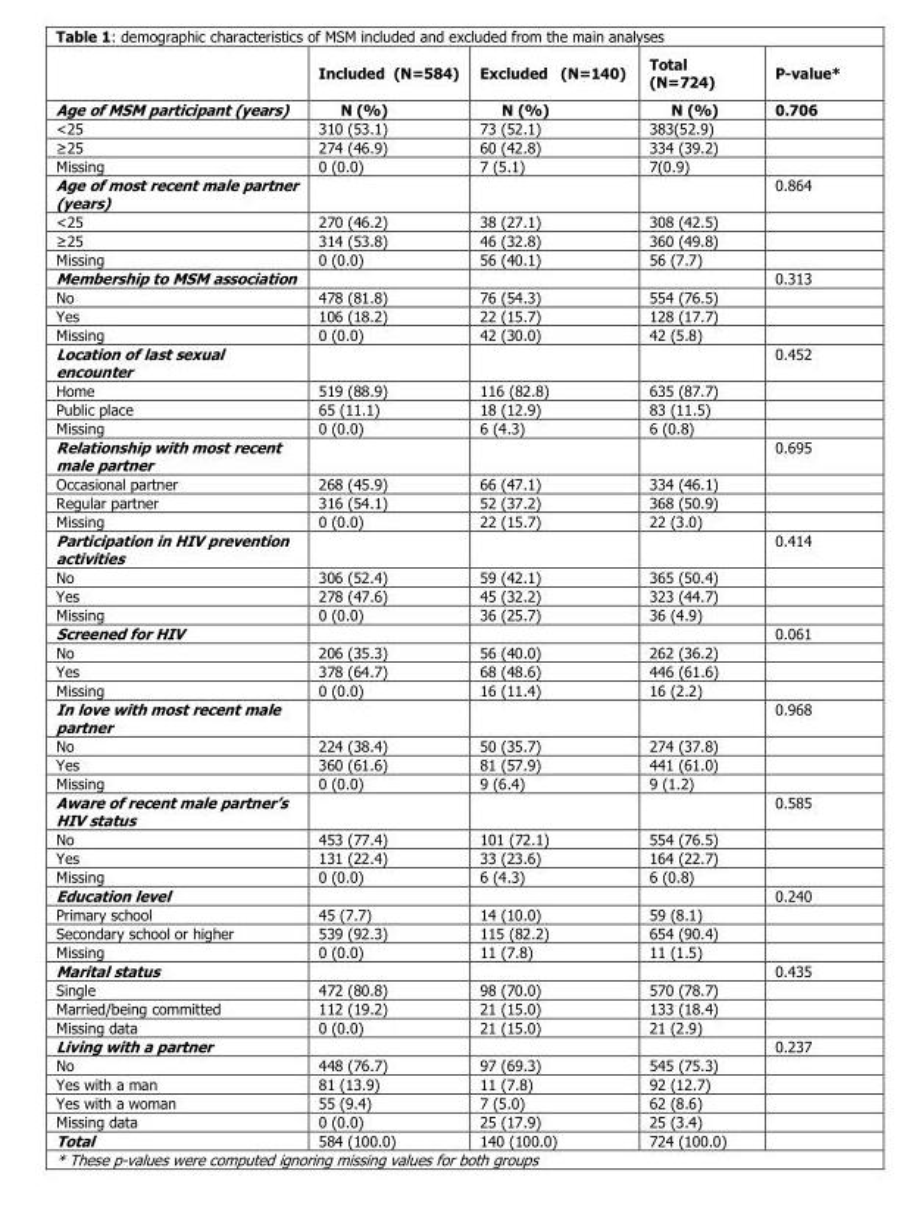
<table><thead><tr><td></td><td>Included (N=584)</td><td>Excluded (N=140)</td><td>Total (N=724)</td><td>P-value*</td></tr></thead><tbody><tr><td>Age of MSM participant (years)</td><td>N (%)</td><td>N (%)</td><td>N (%)</td><td>0.706</td></tr><tr><td>&lt;25</td><td>310 (53.1)</td><td>73 (52.1)</td><td>383(52.9)</td><td></td></tr><tr><td>≥25</td><td>274 (46.9)</td><td>60 (42.8)</td><td>334 (39.2)</td><td></td></tr><tr><td>Missing</td><td>0 (0.0)</td><td>7 (5.1)</td><td>7(0.9)</td><td></td></tr><tr><td>Age of most recent male partner (years)</td><td></td><td></td><td></td><td>0.864</td></tr><tr><td>&lt;25</td><td>270 (46.2)</td><td>38 (27.1)</td><td>308 (42.5)</td><td></td></tr><tr><td>≥25</td><td>314 (53.8)</td><td>46 (32.8)</td><td>360 (49.8)</td><td></td></tr><tr><td>Missing</td><td>0 (0.0)</td><td>56 (40.1)</td><td>56 (7.7)</td><td></td></tr><tr><td>Membership to MSM association</td><td></td><td></td><td></td><td>0.313</td></tr><tr><td>No</td><td>478 (81.8)</td><td>76 (54.3)</td><td>554 (76.5)</td><td></td></tr><tr><td>Yes</td><td>106 (18.2)</td><td>22 (15.7)</td><td>128 (17.7)</td><td></td></tr><tr><td>Missing</td><td>0 (0.0)</td><td>42 (30.0)</td><td>42 (5.8)</td><td></td></tr><tr><td>Location of last sexual encounter</td><td></td><td></td><td></td><td>0.452</td></tr><tr><td>Home</td><td>519 (88.9)</td><td>116 (82.8)</td><td>635 (87.7)</td><td></td></tr><tr><td>Public place</td><td>65 (11.1)</td><td>18 (12.9)</td><td>83 (11.5)</td><td></td></tr><tr><td>Missing</td><td>0 (0.0)</td><td>6 (4.3)</td><td>6 (0.8)</td><td></td></tr><tr><td>Relationship with most recent male partner</td><td></td><td></td><td></td><td>0.695</td></tr><tr><td>Occasional partner</td><td>268 (45.9)</td><td>66 (47.1)</td><td>334 (46.1)</td><td></td></tr><tr><td>Regular partner</td><td>316 (54.1)</td><td>52 (37.2)</td><td>368 (50.9)</td><td></td></tr><tr><td>Missing</td><td>0 (0.0)</td><td>22 (15.7)</td><td>22 (3.0)</td><td></td></tr><tr><td>Participation in HIV prevention activities</td><td></td><td></td><td></td><td>0.414</td></tr><tr><td>No</td><td>306 (52.4)</td><td>59 (42.1)</td><td>365 (50.4)</td><td></td></tr><tr><td>Yes</td><td>278 (47.6)</td><td>45 (32.2)</td><td>323 (44.7)</td><td></td></tr><tr><td>Missing</td><td>0 (0.0)</td><td>36 (25.7)</td><td>36 (4.9)</td><td></td></tr><tr><td>Screened for HIV</td><td></td><td></td><td></td><td>0.061</td></tr><tr><td>No</td><td>206 (35.3)</td><td>56 (40.0)</td><td>262 (36.2)</td><td></td></tr><tr><td>Yes</td><td>378 (64.7)</td><td>68 (48.6)</td><td>446 (61.6)</td><td></td></tr><tr><td>Missing</td><td>0 (0.0)</td><td>16 (11.4)</td><td>16 (2.2)</td><td></td></tr><tr><td>In love with most recent male partner</td><td></td><td></td><td></td><td>0.968</td></tr><tr><td>No</td><td>224 (38.4)</td><td>50 (35.7)</td><td>274 (37.8)</td><td></td></tr><tr><td>Yes</td><td>360 (61.6)</td><td>81 (57.9)</td><td>441 (61.0)</td><td></td></tr><tr><td>Missing</td><td>0 (0.0)</td><td>9 (6.4)</td><td>9 (1.2)</td><td></td></tr><tr><td>Aware of recent male partner’s HIV status</td><td></td><td></td><td></td><td>0.585</td></tr><tr><td>No</td><td>453 (77.4)</td><td>101 (72.1)</td><td>554 (76.5)</td><td></td></tr><tr><td>Yes</td><td>131 (22.4)</td><td>33 (23.6)</td><td>164 (22.7)</td><td></td></tr><tr><td>Missing</td><td>0 (0.0)</td><td>6 (4.3)</td><td>6 (0.8)</td><td></td></tr><tr><td>Education level</td><td></td><td></td><td></td><td>0.240</td></tr><tr><td>Primary school</td><td>45 (7.7)</td><td>14 (10.0)</td><td>59 (8.1)</td><td></td></tr><tr><td>Secondary school or higher</td><td>539 (92.3)</td><td>115 (82.2)</td><td>654 (90.4)</td><td></td></tr><tr><td>Missing</td><td>0 (0.0)</td><td>11 (7.8)</td><td>11 (1.5)</td><td></td></tr><tr><td>Marital status</td><td></td><td></td><td></td><td>0.435</td></tr><tr><td>Single</td><td>472 (80.8)</td><td>98 (70.0)</td><td>570 (78.7)</td><td></td></tr><tr><td>Married/being committed</td><td>112 (19.2)</td><td>21 (15.0)</td><td>133 (18.4)</td><td></td></tr><tr><td>Missing data</td><td>0 (0.0)</td><td>21 (15.0)</td><td>21 (2.9)</td><td></td></tr><tr><td>Living with a partner</td><td></td><td></td><td></td><td>0.237</td></tr><tr><td>No</td><td>448 (76.7)</td><td>97 (69.3)</td><td>545 (75.3)</td><td></td></tr><tr><td>Yes with a man</td><td>81 (13.9)</td><td>11 (7.8)</td><td>92 (12.7)</td><td></td></tr><tr><td>Yes with a woman</td><td>55 (9.4)</td><td>7 (5.0)</td><td>62 (8.6)</td><td></td></tr><tr><td>Missing data</td><td>0 (0.0)</td><td>25 (17.9)</td><td>25 (3.4)</td><td></td></tr><tr><td>Total</td><td>584 (100.0)</td><td>140 (100.0)</td><td>724 (100.0)</td><td></td></tr></tbody></table>